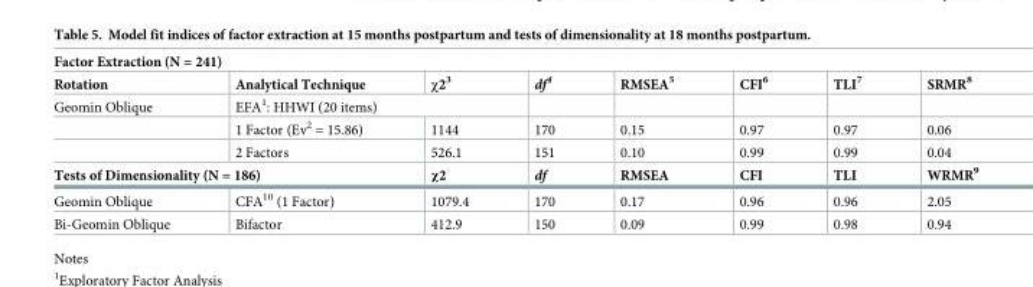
<table><tbody><tr><td colspan="8">Factor Extraction (N = 241)</td></tr><tr><td>Rotation</td><td>Analytical Technique</td><td>χ2<sup>3</sup></td><td>df<sup>4</sup></td><td>RMSEA<sup>5</sup></td><td>CFI<sup>6</sup></td><td>TLI<sup>7</sup></td><td>SRMR<sup>8</sup></td></tr><tr><td rowspan="3">Geomin Oblique</td><td colspan="2">EFA<sup>1</sup>: HHWI (20 items)</td><td></td><td></td><td></td><td></td><td></td></tr><tr><td>1 Factor (Ev<sup>2</sup> = 15.86)</td><td>1144</td><td>170</td><td>0.15</td><td>0.97</td><td>0.97</td><td>0.06</td></tr><tr><td>2 Factors</td><td>526.1</td><td>151</td><td>0.10</td><td>0.99</td><td>0.99</td><td>0.04</td></tr><tr><td colspan="2">Tests of Dimensionality (N = 186)</td><td>χ2</td><td>df</td><td>RMSEA</td><td>CFI</td><td>TLI</td><td>WRMR<sup>9</sup></td></tr><tr><td>Geomin Oblique</td><td>CFA<sup>10</sup> (1 Factor)</td><td>1079.4</td><td>170</td><td>0.17</td><td>0.96</td><td>0.96</td><td>2.05</td></tr><tr><td>Bi-Geomin Oblique</td><td>Bifactor</td><td>412.9</td><td>150</td><td>0.09</td><td>0.99</td><td>0.98</td><td>0.94</td></tr></tbody></table>